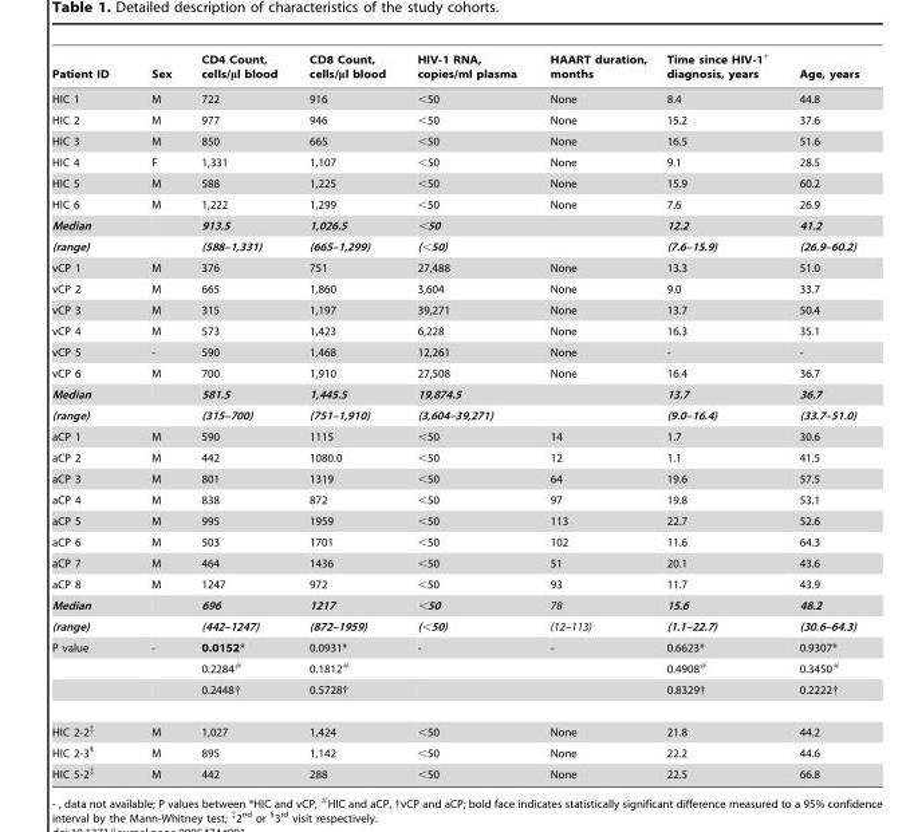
<table><thead><tr><td>Patient ID</td><td>Sex</td><td>CD4 Count, cells/μl blood</td><td>CD8 Count, cells/μl blood</td><td>HIV-1 RNA, copies/ml plasma</td><td>HAART duration, months</td><td>Time since HIV-1<sup>+</sup> diagnosis, years</td><td>Age, years</td></tr></thead><tbody><tr><td>HIC 1</td><td>M</td><td>722</td><td>916</td><td>&lt;50</td><td>None</td><td>8.4</td><td>44.8</td></tr><tr><td>HIC 2</td><td>M</td><td>977</td><td>946</td><td>&lt;50</td><td>None</td><td>15.2</td><td>37.6</td></tr><tr><td>HIC 3</td><td>M</td><td>850</td><td>665</td><td>&lt;50</td><td>None</td><td>16.5</td><td>51.6</td></tr><tr><td>HIC 4</td><td>F</td><td>1,331</td><td>1,107</td><td>&lt;50</td><td>None</td><td>9.1</td><td>28.5</td></tr><tr><td>HIC 5</td><td>M</td><td>588</td><td>1,225</td><td>&lt;50</td><td>None</td><td>15.9</td><td>60.2</td></tr><tr><td>HIC 6</td><td>M</td><td>1,222</td><td>1,299</td><td>&lt;50</td><td>None</td><td>7.6</td><td>26.9</td></tr><tr><td>Median</td><td></td><td>913.5</td><td>1,026.5</td><td>&lt;50</td><td></td><td>12.2</td><td>41.2</td></tr><tr><td>(range)</td><td></td><td>(588–1,331)</td><td>(665–1,299)</td><td>(&lt;50)</td><td></td><td>(7.6–15.9)</td><td>(26.9–60.2)</td></tr><tr><td>vCP 1</td><td>M</td><td>376</td><td>751</td><td>27,488</td><td>None</td><td>13.3</td><td>51.0</td></tr><tr><td>vCP 2</td><td>M</td><td>665</td><td>1,860</td><td>3,604</td><td>None</td><td>9.0</td><td>33.7</td></tr><tr><td>vCP 3</td><td>M</td><td>315</td><td>1,197</td><td>39,271</td><td>None</td><td>13.7</td><td>50.4</td></tr><tr><td>vCP 4</td><td>M</td><td>573</td><td>1,423</td><td>6,228</td><td>None</td><td>16.3</td><td>35.1</td></tr><tr><td>vCP 5</td><td>-</td><td>590</td><td>1,468</td><td>12,261</td><td>None</td><td>-</td><td>-</td></tr><tr><td>vCP 6</td><td>M</td><td>700</td><td>1,910</td><td>27,508</td><td>None</td><td>16.4</td><td>36.7</td></tr><tr><td>Median</td><td></td><td>581.5</td><td>1,445.5</td><td>19,874.5</td><td></td><td>13.7</td><td>36.7</td></tr><tr><td>(range)</td><td></td><td>(315–700)</td><td>(751–1,910)</td><td>(3,604–39,271)</td><td></td><td>(9.0–16.4)</td><td>(33.7–51.0)</td></tr><tr><td>aCP 1</td><td>M</td><td>590</td><td>1115</td><td>&lt;50</td><td>14</td><td>1.7</td><td>30.6</td></tr><tr><td>aCP 2</td><td>M</td><td>442</td><td>1080.0</td><td>&lt;50</td><td>12</td><td>1.1</td><td>41.5</td></tr><tr><td>aCP 3</td><td>M</td><td>801</td><td>1319</td><td>&lt;50</td><td>64</td><td>19.6</td><td>57.5</td></tr><tr><td>aCP 4</td><td>M</td><td>838</td><td>872</td><td>&lt;50</td><td>97</td><td>19.8</td><td>53.1</td></tr><tr><td>aCP 5</td><td>M</td><td>995</td><td>1959</td><td>&lt;50</td><td>113</td><td>22.7</td><td>52.6</td></tr><tr><td>aCP 6</td><td>M</td><td>503</td><td>1701</td><td>&lt;50</td><td>102</td><td>11.6</td><td>64.3</td></tr><tr><td>aCP 7</td><td>M</td><td>464</td><td>1436</td><td>&lt;50</td><td>51</td><td>20.1</td><td>43.6</td></tr><tr><td>aCP 8</td><td>M</td><td>1247</td><td>972</td><td>&lt;50</td><td>93</td><td>11.7</td><td>43.9</td></tr><tr><td>Median</td><td></td><td>696</td><td>1217</td><td>&lt;50</td><td>78</td><td>15.6</td><td>48.2</td></tr><tr><td>(range)</td><td></td><td>(442–1247)</td><td>(872–1959)</td><td>(&lt;50)</td><td>(12–113)</td><td>(1.1–22.7)</td><td>(30.6–64.3)</td></tr><tr><td rowspan="3">P value</td><td>-</td><td>0.0152*</td><td>0.0931*</td><td>-</td><td>-</td><td>0.6623*</td><td>0.9307*</td></tr><tr><td></td><td>0.2284<sup>#</sup></td><td>0.1812<sup>#</sup></td><td></td><td></td><td>0.4908<sup>#</sup></td><td>0.3450<sup>#</sup></td></tr><tr><td></td><td>0.2448†</td><td>0.5728†</td><td></td><td></td><td>0.8329†</td><td>0.2222†</td></tr><tr><td>HIC 2-2<sup>‡</sup></td><td>M</td><td>1,027</td><td>1,424</td><td>&lt;50</td><td>None</td><td>21.8</td><td>44.2</td></tr><tr><td>HIC 2-3<sup>§</sup></td><td>M</td><td>895</td><td>1,142</td><td>&lt;50</td><td>None</td><td>22.2</td><td>44.6</td></tr><tr><td>HIC 5-2<sup>‡</sup></td><td>M</td><td>442</td><td>288</td><td>&lt;50</td><td>None</td><td>22.5</td><td>66.8</td></tr></tbody></table>